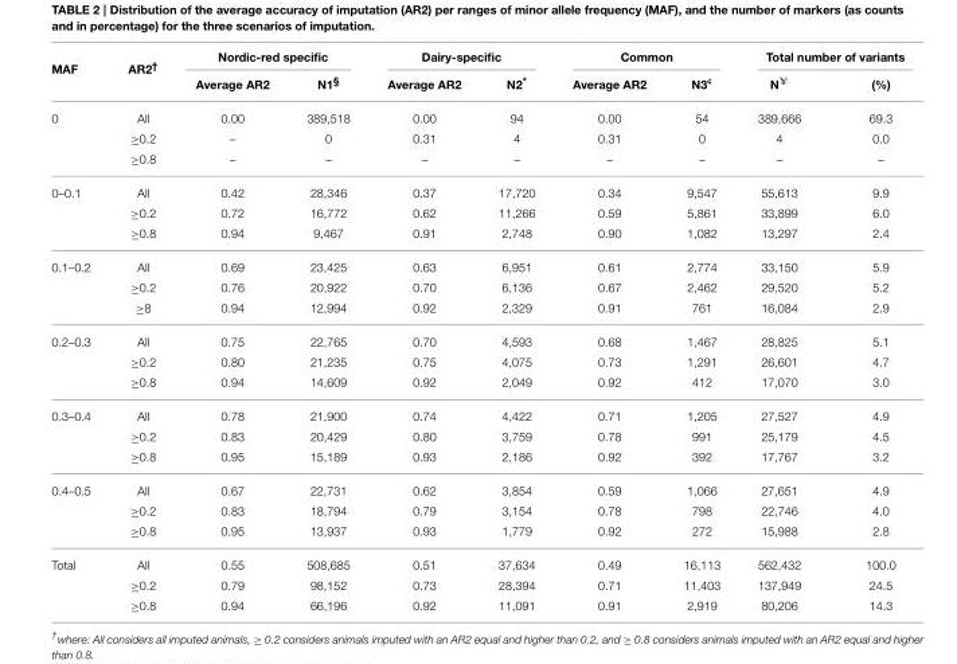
<table><thead><tr><td rowspan="2">MAF</td><td rowspan="2">AR2<sup>†</sup></td><td colspan="2">Nordic-red specific</td><td colspan="2">Dairy-specific</td><td colspan="2">Common</td><td colspan="2">Total number of variants</td></tr><tr><td>Average AR2</td><td>N1<sup>§</sup></td><td>Average AR2</td><td>N2*</td><td>Average AR2</td><td>N3<sup>¢</sup></td><td>N<sup>¥</sup></td><td>(%)</td></tr></thead><tbody><tr><td rowspan="3">0</td><td>All</td><td>0.00</td><td>389,518</td><td>0.00</td><td>94</td><td>0.00</td><td>54</td><td>389,666</td><td>69.3</td></tr><tr><td>≥0.2</td><td>–</td><td>0</td><td>0.31</td><td>4</td><td>0.31</td><td>0</td><td>4</td><td>0.0</td></tr><tr><td>≥0.8</td><td>–</td><td>–</td><td>–</td><td>–</td><td>–</td><td>–</td><td>–</td><td>–</td></tr><tr><td rowspan="3">0–0.1</td><td>All</td><td>0.42</td><td>28,346</td><td>0.37</td><td>17,720</td><td>0.34</td><td>9,547</td><td>55,613</td><td>9.9</td></tr><tr><td>≥0.2</td><td>0.72</td><td>16,772</td><td>0.62</td><td>11,266</td><td>0.59</td><td>5,861</td><td>33,899</td><td>6.0</td></tr><tr><td>≥0.8</td><td>0.94</td><td>9,467</td><td>0.91</td><td>2,748</td><td>0.90</td><td>1,082</td><td>13,297</td><td>2.4</td></tr><tr><td rowspan="3">0.1–0.2</td><td>All</td><td>0.69</td><td>23,425</td><td>0.63</td><td>6,951</td><td>0.61</td><td>2,774</td><td>33,150</td><td>5.9</td></tr><tr><td>≥0.2</td><td>0.76</td><td>20,922</td><td>0.70</td><td>6,136</td><td>0.67</td><td>2,462</td><td>29,520</td><td>5.2</td></tr><tr><td>≥8</td><td>0.94</td><td>12,994</td><td>0.92</td><td>2,329</td><td>0.91</td><td>761</td><td>16,084</td><td>2.9</td></tr><tr><td rowspan="3">0.2–0.3</td><td>All</td><td>0.75</td><td>22,765</td><td>0.70</td><td>4,593</td><td>0.68</td><td>1,467</td><td>28,825</td><td>5.1</td></tr><tr><td>≥0.2</td><td>0.80</td><td>21,235</td><td>0.75</td><td>4,075</td><td>0.73</td><td>1,291</td><td>26,601</td><td>4.7</td></tr><tr><td>≥0.8</td><td>0.94</td><td>14,609</td><td>0.92</td><td>2,049</td><td>0.92</td><td>412</td><td>17,070</td><td>3.0</td></tr><tr><td rowspan="3">0.3–0.4</td><td>All</td><td>0.78</td><td>21,900</td><td>0.74</td><td>4,422</td><td>0.71</td><td>1,205</td><td>27,527</td><td>4.9</td></tr><tr><td>≥0.2</td><td>0.83</td><td>20,429</td><td>0.80</td><td>3,759</td><td>0.78</td><td>991</td><td>25,179</td><td>4.5</td></tr><tr><td>≥0.8</td><td>0.95</td><td>15,189</td><td>0.93</td><td>2,186</td><td>0.92</td><td>392</td><td>17,767</td><td>3.2</td></tr><tr><td rowspan="3">0.4–0.5</td><td>All</td><td>0.67</td><td>22,731</td><td>0.62</td><td>3,854</td><td>0.59</td><td>1,066</td><td>27,651</td><td>4.9</td></tr><tr><td>≥0.2</td><td>0.83</td><td>18,794</td><td>0.79</td><td>3,154</td><td>0.78</td><td>798</td><td>22,746</td><td>4.0</td></tr><tr><td>≥0.8</td><td>0.95</td><td>13,937</td><td>0.93</td><td>1,779</td><td>0.92</td><td>272</td><td>15,988</td><td>2.8</td></tr><tr><td rowspan="3">Total</td><td>All</td><td>0.55</td><td>508,685</td><td>0.51</td><td>37,634</td><td>0.49</td><td>16,113</td><td>562,432</td><td>100.0</td></tr><tr><td>≥0.2</td><td>0.79</td><td>98,152</td><td>0.73</td><td>28,394</td><td>0.71</td><td>11,403</td><td>137,949</td><td>24.5</td></tr><tr><td>≥0.8</td><td>0.94</td><td>66,196</td><td>0.92</td><td>11,091</td><td>0.91</td><td>2,919</td><td>80,206</td><td>14.3</td></tr></tbody></table>